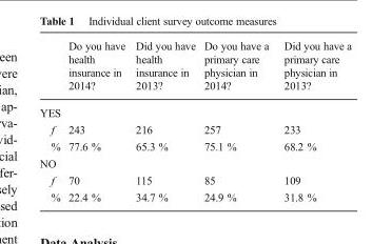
<table><thead><tr><td></td><td>Do you have health insurance in 2014?</td><td>Did you have health insurance in 2013?</td><td>Do you have a primary care physician in 2014?</td><td>Did you have a primary care physician in 2013?</td></tr></thead><tbody><tr><td colspan="5">YES</td></tr><tr><td>f</td><td>243</td><td>216</td><td>257</td><td>233</td></tr><tr><td>%</td><td>77.6 %</td><td>65.3 %</td><td>75.1 %</td><td>68.2 %</td></tr><tr><td colspan="5">NO</td></tr><tr><td>f</td><td>70</td><td>115</td><td>85</td><td>109</td></tr><tr><td>%</td><td>22.4 %</td><td>34.7 %</td><td>24.9 %</td><td>31.8 %</td></tr></tbody></table>